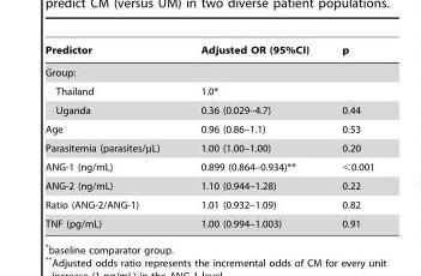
<table><thead><tr><td>Predictor</td><td>Adjusted OR (95%CI)</td><td>p</td></tr></thead><tbody><tr><td colspan="3">Group:</td></tr><tr><td>Thailand</td><td>1.0*</td><td></td></tr><tr><td>Uganda</td><td>0.36 (0.029–4.7)</td><td>0.44</td></tr><tr><td>Age</td><td>0.96 (0.86–1.1)</td><td>0.53</td></tr><tr><td>Parasitemia (parasites/µL)</td><td>1.00 (1.00–1.00)</td><td>0.20</td></tr><tr><td>ANG-1 (ng/mL)</td><td>0.899 (0.864–0.934)**</td><td>&lt;0.001</td></tr><tr><td>ANG-2 (ng/mL)</td><td>1.10 (0.944–1.28)</td><td>0.22</td></tr><tr><td>Ratio (ANG-2/ANG-1)</td><td>1.01 (0.932–1.09)</td><td>0.82</td></tr><tr><td>TNF (pg/mL)</td><td>1.00 (0.994–1.003)</td><td>0.91</td></tr></tbody></table>